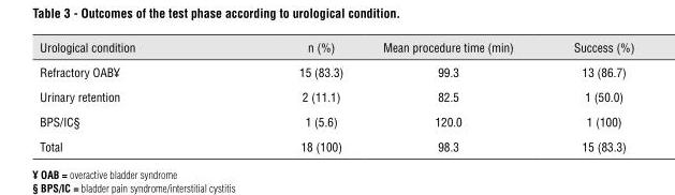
<table><thead><tr><td>Urological condition</td><td>n (%)</td><td>Mean procedure time (min)</td><td>Success (%)</td></tr></thead><tbody><tr><td>Refractory OAB¥</td><td>15 (83.3)</td><td>99.3</td><td>13 (86.7)</td></tr><tr><td>Urinary retention</td><td>2 (11.1)</td><td>82.5</td><td>1 (50.0)</td></tr><tr><td>BPS/IC§</td><td>1 (5.6)</td><td>120.0</td><td>1 (100)</td></tr><tr><td>Total</td><td>18 (100)</td><td>98.3</td><td>15 (83.3)</td></tr></tbody></table>